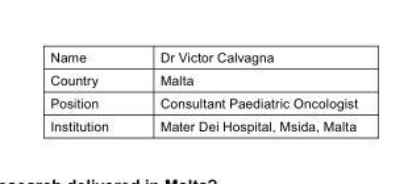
<table><tbody><tr><td>Name</td><td>Dr Victor Calvagna</td></tr><tr><td>Country</td><td>Malta</td></tr><tr><td>Position</td><td>Consultant Paediatric Oncologist</td></tr><tr><td>Institution</td><td>Mater Dei Hospital, Msida, Malta</td></tr></tbody></table>